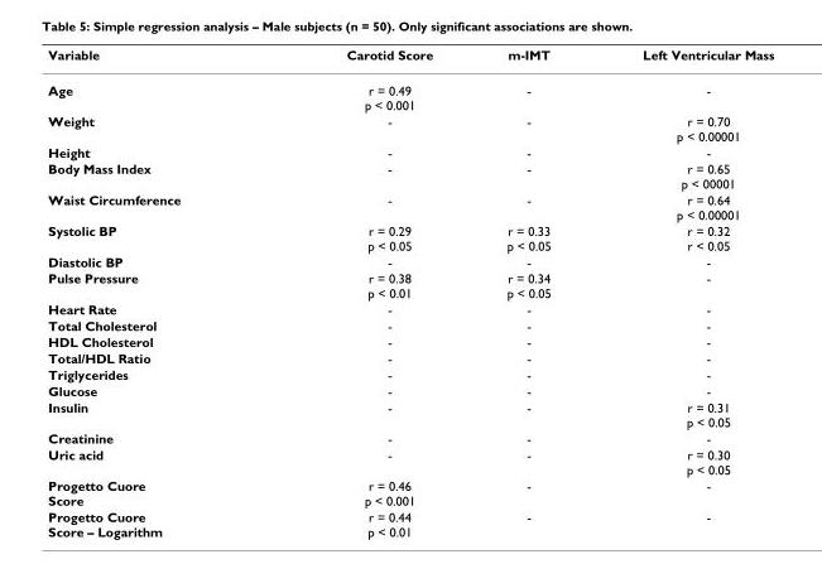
<table><thead><tr><td>Variable</td><td>Carotid Score</td><td>m-IMT</td><td>Left Ventricular Mass</td></tr></thead><tbody><tr><td>Age</td><td>r = 0.49 p &lt; 0.001</td><td>-</td><td>-</td></tr><tr><td>Weight</td><td>-</td><td>-</td><td>r = 0.70 p &lt; 0.00001</td></tr><tr><td>Height</td><td>-</td><td>-</td><td>-</td></tr><tr><td>Body Mass Index</td><td>-</td><td>-</td><td>r = 0.65 p &lt; 00001</td></tr><tr><td>Waist Circumference</td><td>-</td><td>-</td><td>r = 0.64 p &lt; 0.00001</td></tr><tr><td>Systolic BP</td><td>r = 0.29 p &lt; 0.05</td><td>r = 0.33 p &lt; 0.05</td><td>r = 0.32 r &lt; 0.05</td></tr><tr><td>Diastolic BP</td><td>-</td><td>-</td><td>-</td></tr><tr><td>Pulse Pressure</td><td>r = 0.38 p &lt; 0.01</td><td>r = 0.34 p &lt; 0.05</td><td>-</td></tr><tr><td>Heart Rate</td><td>-</td><td>-</td><td>-</td></tr><tr><td>Total Cholesterol</td><td>-</td><td>-</td><td>-</td></tr><tr><td>HDL Cholesterol</td><td>-</td><td>-</td><td>-</td></tr><tr><td>Total/HDL Ratio</td><td>-</td><td>-</td><td>-</td></tr><tr><td>Triglycerides</td><td>-</td><td>-</td><td>-</td></tr><tr><td>Glucose</td><td>-</td><td>-</td><td>-</td></tr><tr><td>Insulin</td><td>-</td><td>-</td><td>r = 0.31 p &lt; 0.05</td></tr><tr><td>Creatinine</td><td>-</td><td>-</td><td>-</td></tr><tr><td>Uric acid</td><td>-</td><td>-</td><td>r = 0.30 p &lt; 0.05</td></tr><tr><td>Progetto Cuore Score</td><td>r = 0.46 p &lt; 0.001</td><td>-</td><td>-</td></tr><tr><td>Progetto Cuore Score – Logarithm</td><td>r = 0.44 p &lt; 0.01</td><td>-</td><td>-</td></tr></tbody></table>